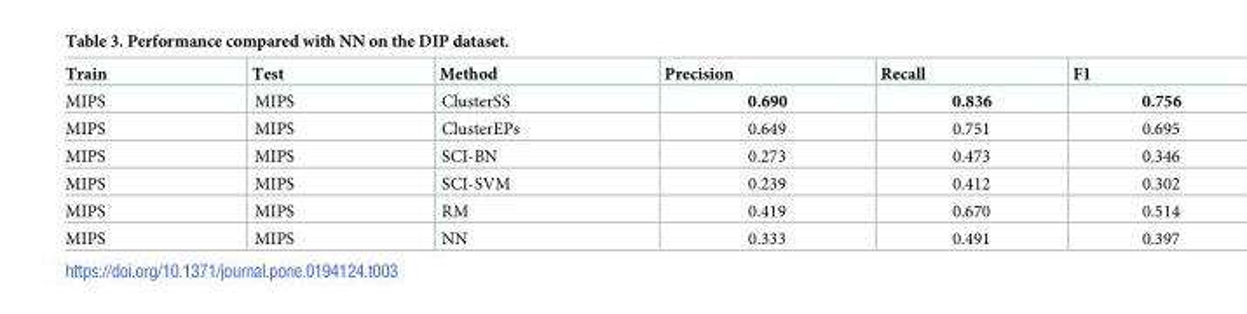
<table><thead><tr><td>Train</td><td>Test</td><td>Method</td><td>Precision</td><td>Recall</td><td>F1</td></tr></thead><tbody><tr><td>MIPS</td><td>MIPS</td><td>ClusterSS</td><td>0.690</td><td>0.836</td><td>0.756</td></tr><tr><td>MIPS</td><td>MIPS</td><td>ClusterEPs</td><td>0.649</td><td>0.751</td><td>0.695</td></tr><tr><td>MIPS</td><td>MIPS</td><td>SCI-BN</td><td>0.273</td><td>0.473</td><td>0.346</td></tr><tr><td>MIPS</td><td>MIPS</td><td>SCI-SVM</td><td>0.239</td><td>0.412</td><td>0.302</td></tr><tr><td>MIPS</td><td>MIPS</td><td>RM</td><td>0.419</td><td>0.670</td><td>0.514</td></tr><tr><td>MIPS</td><td>MIPS</td><td>NN</td><td>0.333</td><td>0.491</td><td>0.397</td></tr></tbody></table>